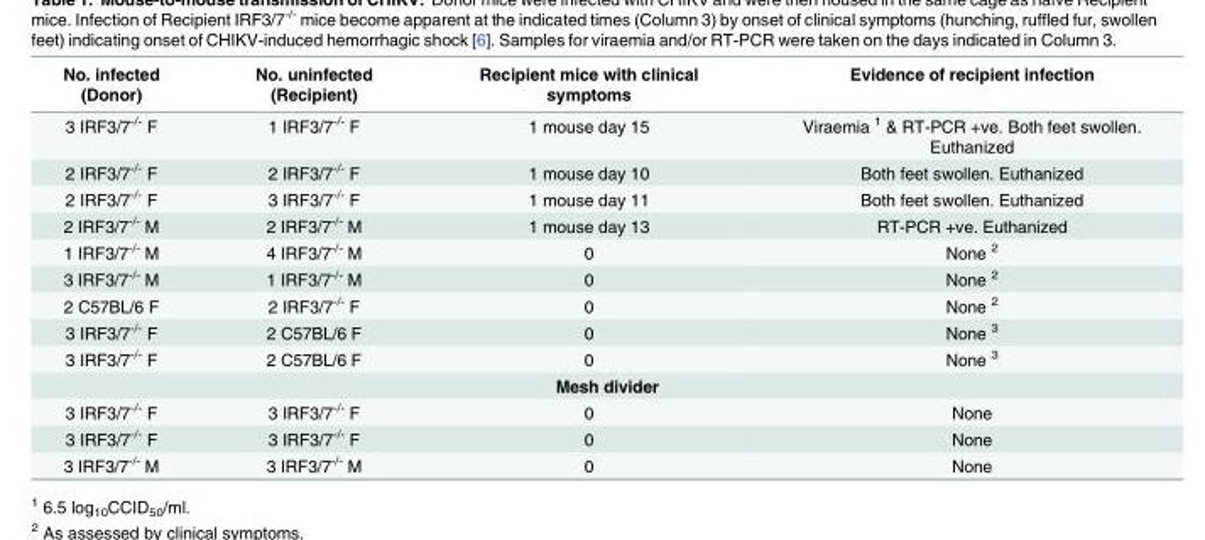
<table><thead><tr><td>No. infected (Donor)</td><td>No. uninfected (Recipient)</td><td>Recipient mice with clinical symptoms</td><td>Evidence of recipient infection</td></tr></thead><tbody><tr><td>3 IRF3/7<sup>-/-</sup> F</td><td>1 IRF3/7<sup>-/-</sup> F</td><td>1 mouse day 15</td><td>Viraemia <sup>1</sup> &amp; RT-PCR +ve. Both feet swollen. Euthanized</td></tr><tr><td>2 IRF3/7<sup>-/-</sup> F</td><td>2 IRF3/7<sup>-/-</sup> F</td><td>1 mouse day 10</td><td>Both feet swollen. Euthanized</td></tr><tr><td>2 IRF3/7<sup>-/-</sup> F</td><td>3 IRF3/7<sup>-/-</sup> F</td><td>1 mouse day 11</td><td>Both feet swollen. Euthanized</td></tr><tr><td>2 IRF3/7<sup>-/-</sup> M</td><td>2 IRF3/7<sup>-/-</sup> M</td><td>1 mouse day 13</td><td>RT-PCR +ve. Euthanized</td></tr><tr><td>1 IRF3/7<sup>-/-</sup> M</td><td>4 IRF3/7<sup>-/-</sup> M</td><td>0</td><td>None <sup>2</sup></td></tr><tr><td>3 IRF3/7<sup>-/-</sup> M</td><td>1 IRF3/7<sup>-/-</sup> M</td><td>0</td><td>None <sup>2</sup></td></tr><tr><td>2 C57BL/6 F</td><td>2 IRF3/7<sup>-/-</sup> F</td><td>0</td><td>None <sup>2</sup></td></tr><tr><td>3 IRF3/7<sup>-/-</sup> F</td><td>2 C57BL/6 F</td><td>0</td><td>None <sup>3</sup></td></tr><tr><td>3 IRF3/7<sup>-/-</sup> F</td><td>2 C57BL/6 F</td><td>0</td><td>None <sup>3</sup></td></tr><tr><td colspan="4">Mesh divider</td></tr><tr><td>3 IRF3/7<sup>-/-</sup> F</td><td>3 IRF3/7<sup>-/-</sup> F</td><td>0</td><td>None</td></tr><tr><td>3 IRF3/7<sup>-/-</sup> F</td><td>3 IRF3/7<sup>-/-</sup> F</td><td>0</td><td>None</td></tr><tr><td>3 IRF3/7<sup>-/-</sup> M</td><td>3 IRF3/7<sup>-/-</sup> M</td><td>0</td><td>None</td></tr></tbody></table>